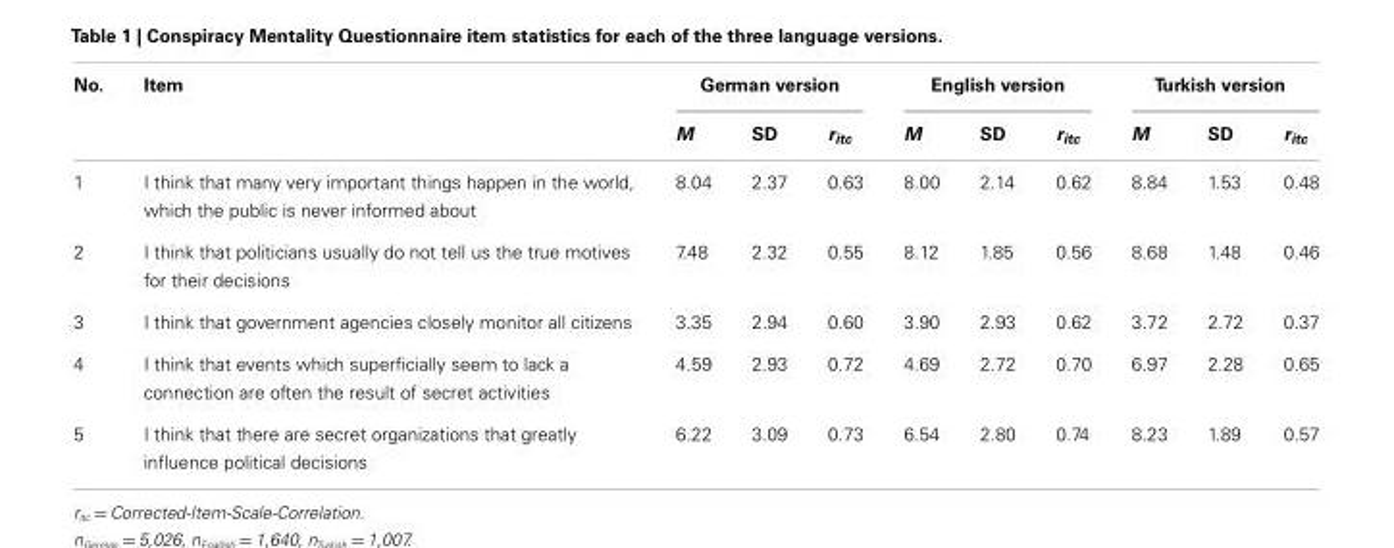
<table><thead><tr><td rowspan="2">No.</td><td rowspan="2">Item</td><td colspan="3">German version</td><td colspan="3">English version</td><td colspan="3">Turkish version</td></tr><tr><td>M</td><td>SD</td><td>r<sub>itc</sub></td><td>M</td><td>SD</td><td>r<sub>itc</sub></td><td>M</td><td>SD</td><td>r<sub>itc</sub></td></tr></thead><tbody><tr><td>1</td><td>I think that many very important things happen in the world, which the public is never informed about</td><td>8.04</td><td>2.37</td><td>0.63</td><td>8.00</td><td>2.14</td><td>0.62</td><td>8.84</td><td>1.53</td><td>0.48</td></tr><tr><td>2</td><td>I think that politicians usually do not tell us the true motives for their decisions</td><td>7.48</td><td>2.32</td><td>0.55</td><td>8.12</td><td>1.85</td><td>0.56</td><td>8.68</td><td>1.48</td><td>0.46</td></tr><tr><td>3</td><td>I think that government agencies closely monitor all citizens</td><td>3.35</td><td>2.94</td><td>0.60</td><td>3.90</td><td>2.93</td><td>0.62</td><td>3.72</td><td>2.72</td><td>0.37</td></tr><tr><td>4</td><td>I think that events which superficially seem to lack a connection are often the result of secret activities</td><td>4.59</td><td>2.93</td><td>0.72</td><td>4.69</td><td>2.72</td><td>0.70</td><td>6.97</td><td>2.28</td><td>0.65</td></tr><tr><td>5</td><td>I think that there are secret organizations that greatly influence political decisions</td><td>6.22</td><td>3.09</td><td>0.73</td><td>6.54</td><td>2.80</td><td>0.74</td><td>8.23</td><td>1.89</td><td>0.57</td></tr></tbody></table>